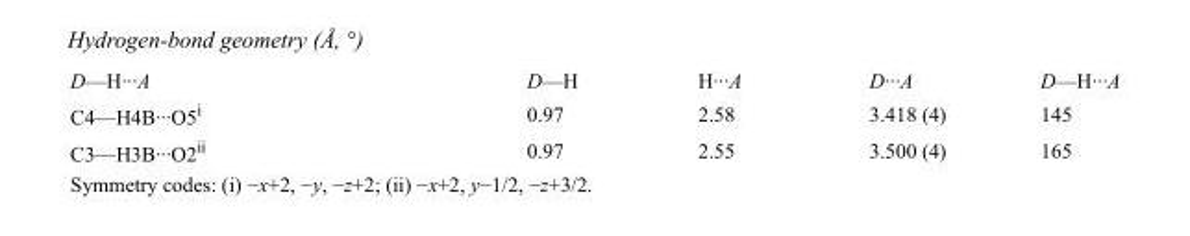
<table><tbody><tr><td>D—H···A</td><td>D—H</td><td>H···A</td><td>D···A</td><td>D—H···A</td></tr><tr><td>C4—H4B···O5<sup>i</sup></td><td>0.97</td><td>2.58</td><td>3.418 (4)</td><td>145</td></tr><tr><td>C3—H3B···O2<sup>ii</sup></td><td>0.97</td><td>2.55</td><td>3.500 (4)</td><td>165</td></tr></tbody></table>